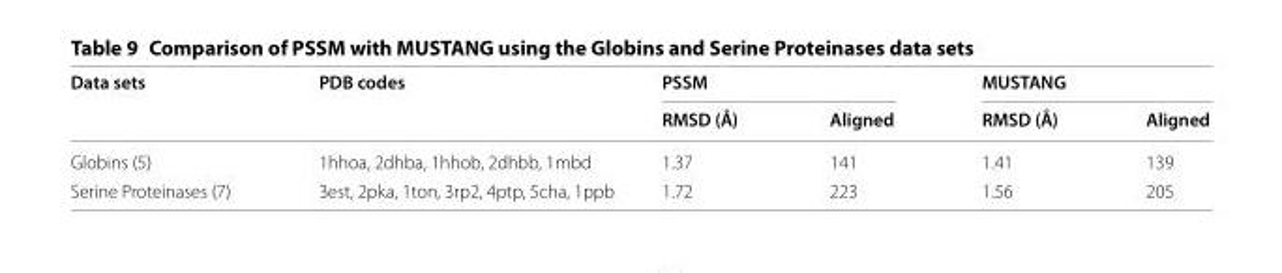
<table><thead><tr><td rowspan="2">Data sets</td><td rowspan="2">PDB codes</td><td colspan="2">PSSM</td><td colspan="2">MUSTANG</td></tr><tr><td>RMSD (Å)</td><td>Aligned</td><td>RMSD (Å)</td><td>Aligned</td></tr></thead><tbody><tr><td>Globins (5)</td><td>1hhoa, 2dhba, 1hhob, 2dhbb, 1mbd</td><td>1.37</td><td>141</td><td>1.41</td><td>139</td></tr><tr><td>Serine Proteinases (7)</td><td>3est, 2pka, 1ton, 3rp2, 4ptp, 5cha, 1ppb</td><td>1.72</td><td>223</td><td>1.56</td><td>205</td></tr></tbody></table>